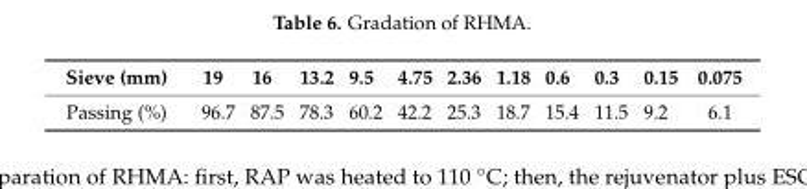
<table><thead><tr><td>Sieve (mm)</td><td>19</td><td>16</td><td>13.2</td><td>9.5</td><td>4.75</td><td>2.36</td><td>1.18</td><td>0.6</td><td>0.3</td><td>0.15</td><td>0.075</td></tr></thead><tbody><tr><td>Passing (%)</td><td>96.7</td><td>87.5</td><td>78.3</td><td>60.2</td><td>42.2</td><td>25.3</td><td>18.7</td><td>15.4</td><td>11.5</td><td>9.2</td><td>6.1</td></tr></tbody></table>